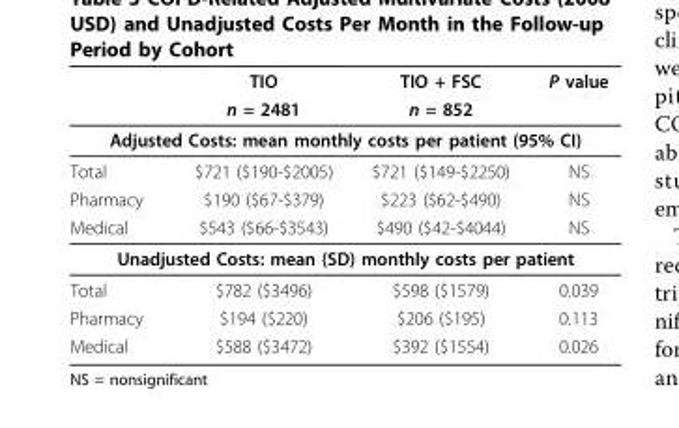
<table><thead><tr><td rowspan="2"></td><td rowspan="2">TIO n = 2481</td><td rowspan="2">TIO + FSC n = 852</td><td rowspan="2">P value</td></tr><tr></tr></thead><tbody><tr><td colspan="4">Adjusted Costs: mean monthly costs per patient (95% CI)</td></tr><tr><td>Total</td><td>$721 ($190-$2005)</td><td>$721 ($149-$2250)</td><td>NS</td></tr><tr><td>Pharmacy</td><td>$190 ($67-$379)</td><td>$223 ($62-$490)</td><td>NS</td></tr><tr><td>Medical</td><td>$543 ($66-$3543)</td><td>$490 ($42-$4044)</td><td>NS</td></tr><tr><td colspan="4">Unadjusted Costs: mean (SD) monthly costs per patient</td></tr><tr><td>Total</td><td>$782 ($3496)</td><td>$598 ($1579)</td><td>0.039</td></tr><tr><td>Pharmacy</td><td>$194 ($220)</td><td>$206 ($195)</td><td>0.113</td></tr><tr><td>Medical</td><td>$588 ($3472)</td><td>$392 ($1554)</td><td>0.026</td></tr></tbody></table>